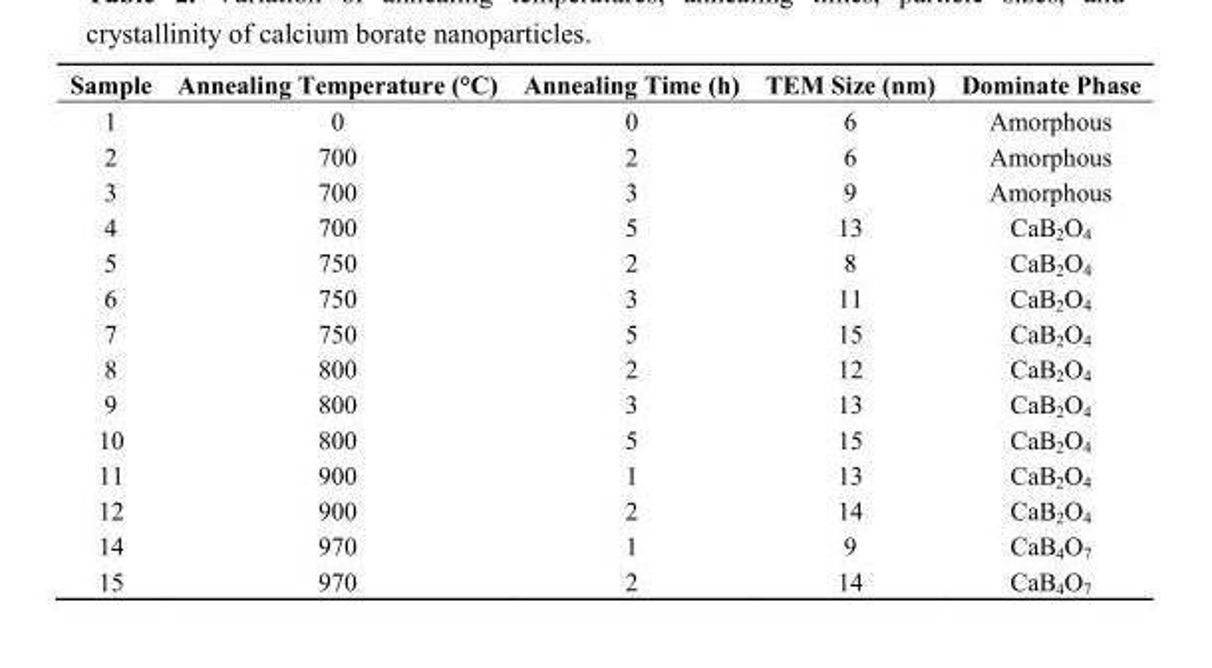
<table><thead><tr><td>Sample</td><td>Annealing Temperature (°C)</td><td>Annealing Time (h)</td><td>TEM Size (nm)</td><td>Dominate Phase</td></tr></thead><tbody><tr><td>1</td><td>0</td><td>0</td><td>6</td><td>Amorphous</td></tr><tr><td>2</td><td>700</td><td>2</td><td>6</td><td>Amorphous</td></tr><tr><td>3</td><td>700</td><td>3</td><td>9</td><td>Amorphous</td></tr><tr><td>4</td><td>700</td><td>5</td><td>13</td><td>CaB<sub>2</sub>O<sub>4</sub></td></tr><tr><td>5</td><td>750</td><td>2</td><td>8</td><td>CaB<sub>2</sub>O<sub>4</sub></td></tr><tr><td>6</td><td>750</td><td>3</td><td>11</td><td>CaB<sub>2</sub>O<sub>4</sub></td></tr><tr><td>7</td><td>750</td><td>5</td><td>15</td><td>CaB<sub>2</sub>O<sub>4</sub></td></tr><tr><td>8</td><td>800</td><td>2</td><td>12</td><td>CaB<sub>2</sub>O<sub>4</sub></td></tr><tr><td>9</td><td>800</td><td>3</td><td>13</td><td>CaB<sub>2</sub>O<sub>4</sub></td></tr><tr><td>10</td><td>800</td><td>5</td><td>15</td><td>CaB<sub>2</sub>O<sub>4</sub></td></tr><tr><td>11</td><td>900</td><td>1</td><td>13</td><td>CaB<sub>2</sub>O<sub>4</sub></td></tr><tr><td>12</td><td>900</td><td>2</td><td>14</td><td>CaB<sub>2</sub>O<sub>4</sub></td></tr><tr><td>14</td><td>970</td><td>1</td><td>9</td><td>CaB<sub>4</sub>O<sub>7</sub></td></tr><tr><td>15</td><td>970</td><td>2</td><td>14</td><td>CaB<sub>4</sub>O<sub>7</sub></td></tr></tbody></table>